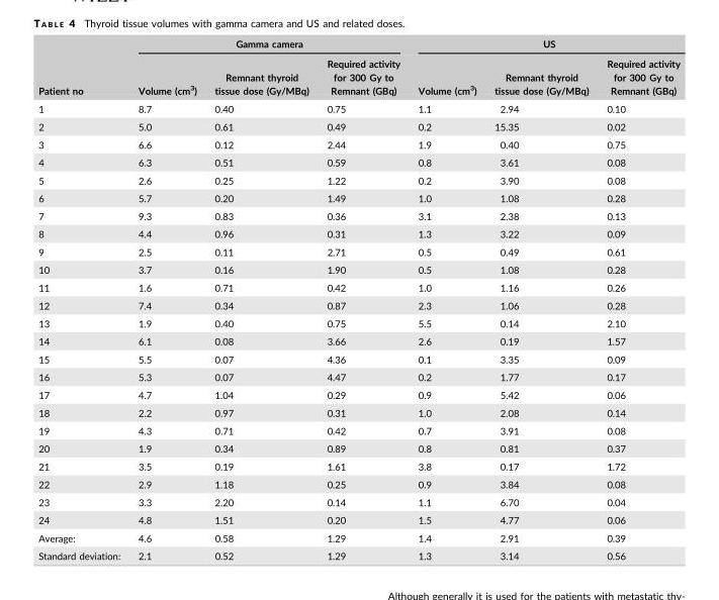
<table><thead><tr><td rowspan="2">Patient no</td><td colspan="3">Gamma camera</td><td colspan="3">US</td></tr><tr><td>Volume (cm<sup>3</sup>)</td><td>Remnant thyroid tissue dose (Gy/MBq)</td><td>Required activity for 300 Gy to Remnant (GBq)</td><td>Volume (cm<sup>3</sup>)</td><td>Remnant thyroid tissue dose (Gy/MBq)</td><td>Required activity for 300 Gy to Remnant (GBq)</td></tr></thead><tbody><tr><td>1</td><td>8.7</td><td>0.40</td><td>0.75</td><td>1.1</td><td>2.94</td><td>0.10</td></tr><tr><td>2</td><td>5.0</td><td>0.61</td><td>0.49</td><td>0.2</td><td>15.35</td><td>0.02</td></tr><tr><td>3</td><td>6.6</td><td>0.12</td><td>2.44</td><td>1.9</td><td>0.40</td><td>0.75</td></tr><tr><td>4</td><td>6.3</td><td>0.51</td><td>0.59</td><td>0.8</td><td>3.61</td><td>0.08</td></tr><tr><td>5</td><td>2.6</td><td>0.25</td><td>1.22</td><td>0.2</td><td>3.90</td><td>0.08</td></tr><tr><td>6</td><td>5.7</td><td>0.20</td><td>1.49</td><td>1.0</td><td>1.08</td><td>0.28</td></tr><tr><td>7</td><td>9.3</td><td>0.83</td><td>0.36</td><td>3.1</td><td>2.38</td><td>0.13</td></tr><tr><td>8</td><td>4.4</td><td>0.96</td><td>0.31</td><td>1.3</td><td>3.22</td><td>0.09</td></tr><tr><td>9</td><td>2.5</td><td>0.11</td><td>2.71</td><td>0.5</td><td>0.49</td><td>0.61</td></tr><tr><td>10</td><td>3.7</td><td>0.16</td><td>1.90</td><td>0.5</td><td>1.08</td><td>0.28</td></tr><tr><td>11</td><td>1.6</td><td>0.71</td><td>0.42</td><td>1.0</td><td>1.16</td><td>0.26</td></tr><tr><td>12</td><td>7.4</td><td>0.34</td><td>0.87</td><td>2.3</td><td>1.06</td><td>0.28</td></tr><tr><td>13</td><td>1.9</td><td>0.40</td><td>0.75</td><td>5.5</td><td>0.14</td><td>2.10</td></tr><tr><td>14</td><td>6.1</td><td>0.08</td><td>3.66</td><td>2.6</td><td>0.19</td><td>1.57</td></tr><tr><td>15</td><td>5.5</td><td>0.07</td><td>4.36</td><td>0.1</td><td>3.35</td><td>0.09</td></tr><tr><td>16</td><td>5.3</td><td>0.07</td><td>4.47</td><td>0.2</td><td>1.77</td><td>0.17</td></tr><tr><td>17</td><td>4.7</td><td>1.04</td><td>0.29</td><td>0.9</td><td>5.42</td><td>0.06</td></tr><tr><td>18</td><td>2.2</td><td>0.97</td><td>0.31</td><td>1.0</td><td>2.08</td><td>0.14</td></tr><tr><td>19</td><td>4.3</td><td>0.71</td><td>0.42</td><td>0.7</td><td>3.91</td><td>0.08</td></tr><tr><td>20</td><td>1.9</td><td>0.34</td><td>0.89</td><td>0.8</td><td>0.81</td><td>0.37</td></tr><tr><td>21</td><td>3.5</td><td>0.19</td><td>1.61</td><td>3.8</td><td>0.17</td><td>1.72</td></tr><tr><td>22</td><td>2.9</td><td>1.18</td><td>0.25</td><td>0.9</td><td>3.84</td><td>0.08</td></tr><tr><td>23</td><td>3.3</td><td>2.20</td><td>0.14</td><td>1.1</td><td>6.70</td><td>0.04</td></tr><tr><td>24</td><td>4.8</td><td>1.51</td><td>0.20</td><td>1.5</td><td>4.77</td><td>0.06</td></tr><tr><td>Average:</td><td>4.6</td><td>0.58</td><td>1.29</td><td>1.4</td><td>2.91</td><td>0.39</td></tr><tr><td>Standard deviation:</td><td>2.1</td><td>0.52</td><td>1.29</td><td>1.3</td><td>3.14</td><td>0.56</td></tr></tbody></table>